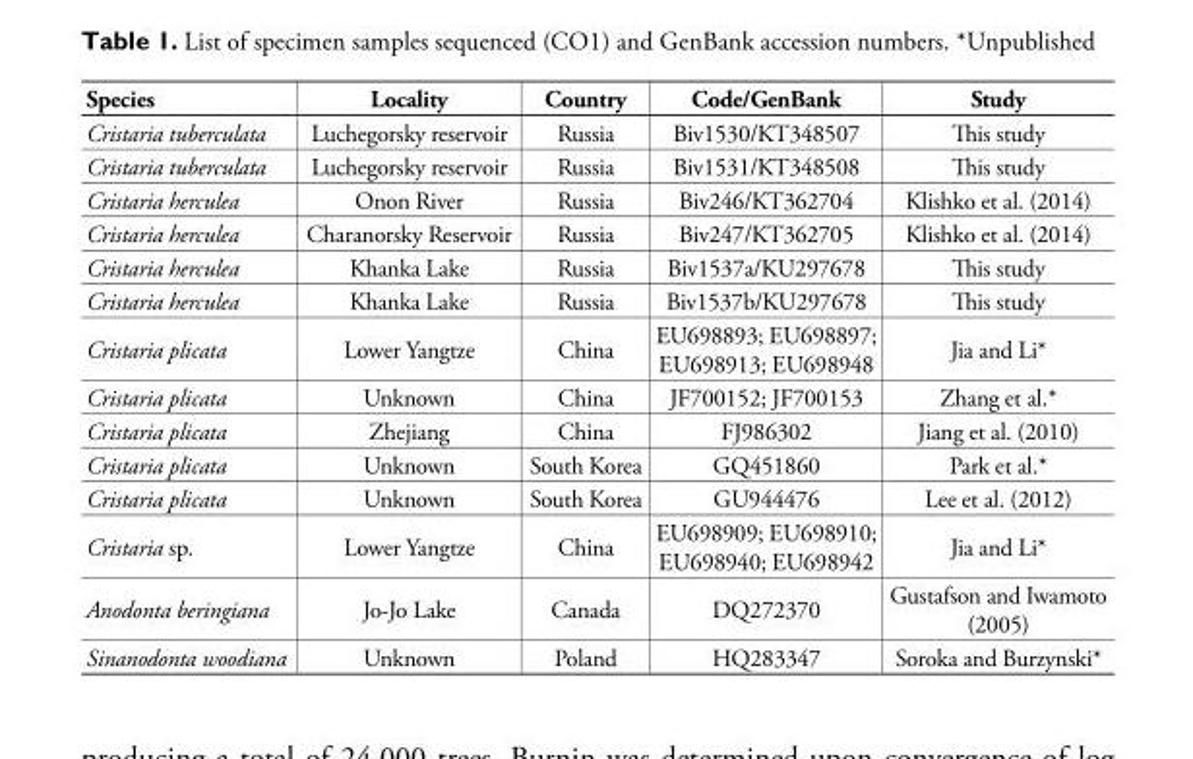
<table><thead><tr><td>Species</td><td>Locality</td><td>Country</td><td>Code/GenBank</td><td>Study</td></tr></thead><tbody><tr><td>Cristaria tuberculata</td><td>Luchegorsky reservoir</td><td>Russia</td><td>Biv1530/KT348507</td><td>This study</td></tr><tr><td>Cristaria tuberculata</td><td>Luchegorsky reservoir</td><td>Russia</td><td>Biv1531/KT348508</td><td>This study</td></tr><tr><td>Cristaria herculea</td><td>Onon River</td><td>Russia</td><td>Biv246/KT362704</td><td>Klishko et al. (2014)</td></tr><tr><td>Cristaria herculea</td><td>Charanorsky Reservoir</td><td>Russia</td><td>Biv247/KT362705</td><td>Klishko et al. (2014)</td></tr><tr><td>Cristaria herculea</td><td>Khanka Lake</td><td>Russia</td><td>Biv1537a/KU297678</td><td>This study</td></tr><tr><td>Cristaria herculea</td><td>Khanka Lake</td><td>Russia</td><td>Biv1537b/KU297678</td><td>This study</td></tr><tr><td>Cristaria plicata</td><td>Lower Yangtze</td><td>China</td><td>EU698893; EU698897; EU698913; EU698948</td><td>Jia and Li*</td></tr><tr><td>Cristaria plicata</td><td>Unknown</td><td>China</td><td>JF700152; JF700153</td><td>Zhang et al.*</td></tr><tr><td>Cristaria plicata</td><td>Zhejiang</td><td>China</td><td>FJ986302</td><td>Jiang et al. (2010)</td></tr><tr><td>Cristaria plicata</td><td>Unknown</td><td>South Korea</td><td>GQ451860</td><td>Park et al.*</td></tr><tr><td>Cristaria plicata</td><td>Unknown</td><td>South Korea</td><td>GU944476</td><td>Lee et al. (2012)</td></tr><tr><td>Cristaria sp.</td><td>Lower Yangtze</td><td>China</td><td>EU698909; EU698910; EU698940; EU698942</td><td>Jia and Li*</td></tr><tr><td>Anodonta beringiana</td><td>Jo-Jo Lake</td><td>Canada</td><td>DQ272370</td><td>Gustafson and Iwamoto (2005)</td></tr><tr><td>Sinanodonta woodiana</td><td>Unknown</td><td>Poland</td><td>HQ283347</td><td>Soroka and Burzynski*</td></tr></tbody></table>